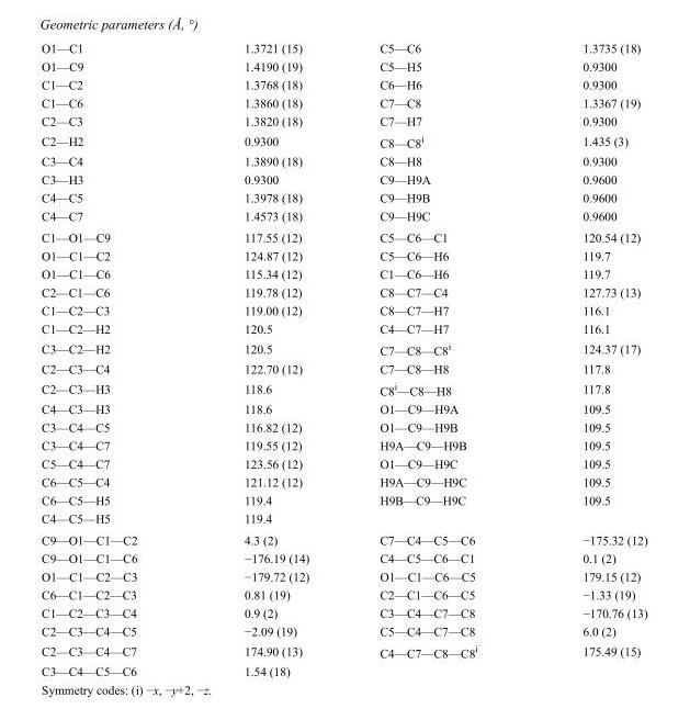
<table><tbody><tr><td>O1—C1</td><td>1.3721 (15)</td><td>C5—C6</td><td>1.3735 (18)</td></tr><tr><td>O1—C9</td><td>1.4190 (19)</td><td>C5—H5</td><td>0.9300</td></tr><tr><td>C1—C2</td><td>1.3768 (18)</td><td>C6—H6</td><td>0.9300</td></tr><tr><td>C1—C6</td><td>1.3860 (18)</td><td>C7—C8</td><td>1.3367 (19)</td></tr><tr><td>C2—C3</td><td>1.3820 (18)</td><td>C7—H7</td><td>0.9300</td></tr><tr><td>C2—H2</td><td>0.9300</td><td>C8—C8<sup>i</sup></td><td>1.435 (3)</td></tr><tr><td>C3—C4</td><td>1.3890 (18)</td><td>C8—H8</td><td>0.9300</td></tr><tr><td>C3—H3</td><td>0.9300</td><td>C9—H9A</td><td>0.9600</td></tr><tr><td>C4—C5</td><td>1.3978 (18)</td><td>C9—H9B</td><td>0.9600</td></tr><tr><td>C4—C7</td><td>1.4573 (18)</td><td>C9—H9C</td><td>0.9600</td></tr><tr><td>C1—O1—C9</td><td>117.55 (12)</td><td>C5—C6—C1</td><td>120.54 (12)</td></tr><tr><td>O1—C1—C2</td><td>124.87 (12)</td><td>C5—C6—H6</td><td>119.7</td></tr><tr><td>O1—C1—C6</td><td>115.34 (12)</td><td>C1—C6—H6</td><td>119.7</td></tr><tr><td>C2—C1—C6</td><td>119.78 (12)</td><td>C8—C7—C4</td><td>127.73 (13)</td></tr><tr><td>C1—C2—C3</td><td>119.00 (12)</td><td>C8—C7—H7</td><td>116.1</td></tr><tr><td>C1—C2—H2</td><td>120.5</td><td>C4—C7—H7</td><td>116.1</td></tr><tr><td>C3—C2—H2</td><td>120.5</td><td>C7—C8—C8<sup>i</sup></td><td>124.37 (17)</td></tr><tr><td>C2—C3—C4</td><td>122.70 (12)</td><td>C7—C8—H8</td><td>117.8</td></tr><tr><td>C2—C3—H3</td><td>118.6</td><td>C8<sup>i</sup>—C8—H8</td><td>117.8</td></tr><tr><td>C4—C3—H3</td><td>118.6</td><td>O1—C9—H9A</td><td>109.5</td></tr><tr><td>C3—C4—C5</td><td>116.82 (12)</td><td>O1—C9—H9B</td><td>109.5</td></tr><tr><td>C3—C4—C7</td><td>119.55 (12)</td><td>H9A—C9—H9B</td><td>109.5</td></tr><tr><td>C5—C4—C7</td><td>123.56 (12)</td><td>O1—C9—H9C</td><td>109.5</td></tr><tr><td>C6—C5—C4</td><td>121.12 (12)</td><td>H9A—C9—H9C</td><td>109.5</td></tr><tr><td>C6—C5—H5</td><td>119.4</td><td>H9B—C9—H9C</td><td>109.5</td></tr><tr><td>C4—C5—H5</td><td>119.4</td><td></td><td></td></tr><tr><td>C9—O1—C1—C2</td><td>4.3 (2)</td><td>C7—C4—C5—C6</td><td>−175.32 (12)</td></tr><tr><td>C9—O1—C1—C6</td><td>−176.19 (14)</td><td>C4—C5—C6—C1</td><td>0.1 (2)</td></tr><tr><td>O1—C1—C2—C3</td><td>−179.72 (12)</td><td>O1—C1—C6—C5</td><td>179.15 (12)</td></tr><tr><td>C6—C1—C2—C3</td><td>0.81 (19)</td><td>C2—C1—C6—C5</td><td>−1.33 (19)</td></tr><tr><td>C1—C2—C3—C4</td><td>0.9 (2)</td><td>C3—C4—C7—C8</td><td>−170.76 (13)</td></tr><tr><td>C2—C3—C4—C5</td><td>−2.09 (19)</td><td>C5—C4—C7—C8</td><td>6.0 (2)</td></tr><tr><td>C2—C3—C4—C7</td><td>174.90 (13)</td><td>C4—C7—C8—C8<sup>i</sup></td><td>175.49 (15)</td></tr><tr><td>C3—C4—C5—C6</td><td>1.54 (18)</td><td></td><td></td></tr></tbody></table>